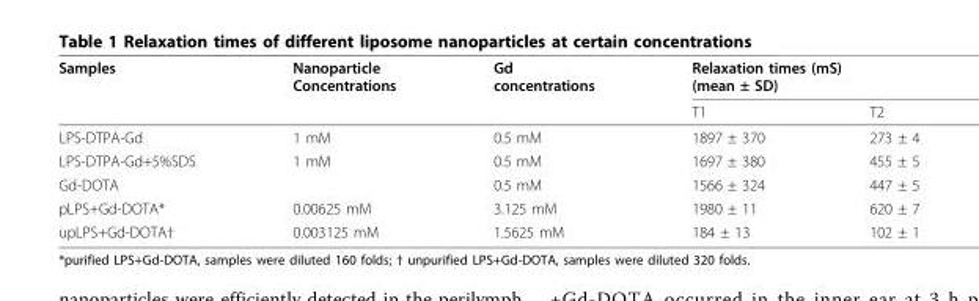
<table><thead><tr><td rowspan="2">Samples</td><td rowspan="2">Nanoparticle Concentrations</td><td rowspan="2">Gd concentrations</td><td colspan="2">Relaxation times (mS) (mean ± SD)</td></tr><tr><td>T1</td><td>T2</td></tr></thead><tbody><tr><td>LPS-DTPA-Gd</td><td>1 mM</td><td>0.5 mM</td><td>1897 ± 370</td><td>273 ± 4</td></tr><tr><td>LPS-DTPA-Gd+5%SDS</td><td>1 mM</td><td>0.5 mM</td><td>1697 ± 380</td><td>455 ± 5</td></tr><tr><td>Gd-DOTA</td><td></td><td>0.5 mM</td><td>1566 ± 324</td><td>447 ± 5</td></tr><tr><td>pLPS+Gd-DOTA*</td><td>0.00625 mM</td><td>3.125 mM</td><td>1980 ± 11</td><td>620 ± 7</td></tr><tr><td>upLPS+Gd-DOTA†</td><td>0.003125 mM</td><td>1.5625 mM</td><td>184 ± 13</td><td>102 ± 1</td></tr></tbody></table>